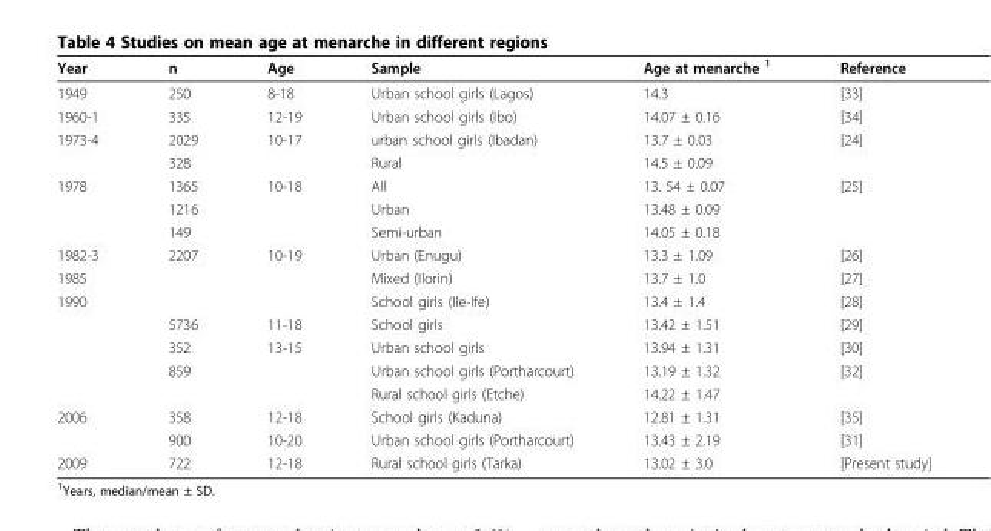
<table><thead><tr><td>Year</td><td>n</td><td>Age</td><td>Sample</td><td>Age at menarche <sup>1</sup></td><td>Reference</td></tr></thead><tbody><tr><td>1949</td><td>250</td><td>8-18</td><td>Urban school girls (Lagos)</td><td>14.3</td><td>[33]</td></tr><tr><td>1960-1</td><td>335</td><td>12-19</td><td>Urban school girls (Ibo)</td><td>14.07 ± 0.16</td><td>[34]</td></tr><tr><td rowspan="2">1973-4</td><td>2029</td><td>10-17</td><td>urban school girls (Ibadan)</td><td>13.7 ± 0.03</td><td>[24]</td></tr><tr><td>328</td><td></td><td>Rural</td><td>14.5 ± 0.09</td><td></td></tr><tr><td rowspan="3">1978</td><td>1365</td><td>10-18</td><td>All</td><td>13. 54 ± 0.07</td><td>[25]</td></tr><tr><td>1216</td><td></td><td>Urban</td><td>13.48 ± 0.09</td><td></td></tr><tr><td>149</td><td></td><td>Semi-urban</td><td>14.05 ± 0.18</td><td></td></tr><tr><td>1982-3</td><td>2207</td><td>10-19</td><td>Urban (Enugu)</td><td>13.3 ± 1.09</td><td>[26]</td></tr><tr><td>1985</td><td></td><td></td><td>Mixed (Ilorin)</td><td>13.7 ± 1.0</td><td>[27]</td></tr><tr><td rowspan="5">1990</td><td></td><td></td><td>School girls (Ile-Ife)</td><td>13.4 ± 1.4</td><td>[28]</td></tr><tr><td>5736</td><td>11-18</td><td>School girls</td><td>13.42 ± 1.51</td><td>[29]</td></tr><tr><td>352</td><td>13-15</td><td>Urban school girls</td><td>13.94 ± 1.31</td><td>[30]</td></tr><tr><td>859</td><td></td><td>Urban school girls (Portharcourt)</td><td>13.19 ± 1.32</td><td>[32]</td></tr><tr><td></td><td></td><td>Rural school girls (Etche)</td><td>14.22 ± 1.47</td><td></td></tr><tr><td rowspan="2">2006</td><td>358</td><td>12-18</td><td>School girls (Kaduna)</td><td>12.81 ± 1.31</td><td>[35]</td></tr><tr><td>900</td><td>10-20</td><td>Urban school girls (Portharcourt)</td><td>13.43 ± 2.19</td><td>[31]</td></tr><tr><td>2009</td><td>722</td><td>12-18</td><td>Rural school girls (Tarka)</td><td>13.02 ± 3.0</td><td>[Present study]</td></tr></tbody></table>